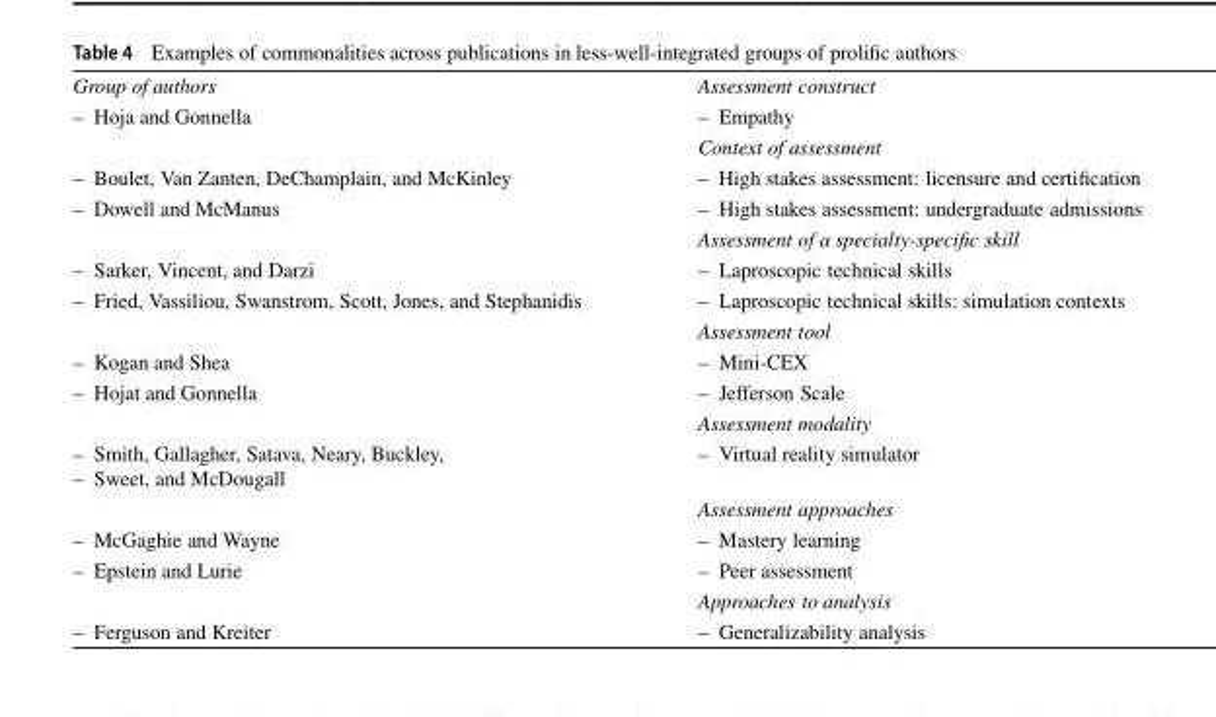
<table><tbody><tr><td>Group of authors</td><td>Assessment construct</td></tr><tr><td rowspan="2">– Hoja and Gonnella</td><td>– Empathy</td></tr><tr><td>Context of assessment</td></tr><tr><td>– Boulet, Van Zanten, DeChamplain, and McKinley</td><td>– High stakes assessment: licensure and certification</td></tr><tr><td rowspan="2">– Dowell and McManus</td><td>– High stakes assessment: undergraduate admissions</td></tr><tr><td>Assessment of a specialty-specific skill</td></tr><tr><td>– Sarker, Vincent, and Darzi</td><td>– Laproscopic technical skills</td></tr><tr><td rowspan="2">– Fried, Vassiliou, Swanstrom, Scott, Jones, and Stephanidis</td><td>– Laproscopic technical skills: simulation contexts</td></tr><tr><td>Assessment tool</td></tr><tr><td>– Kogan and Shea</td><td>– Mini-CEX</td></tr><tr><td rowspan="2">– Hojat and Gonnella</td><td>– Jefferson Scale</td></tr><tr><td>Assessment modality</td></tr><tr><td rowspan="2">– Smith, Gallagher, Satava, Neary, Buckley, – Sweet, and McDougall</td><td>– Virtual reality simulator</td></tr><tr><td>Assessment approaches</td></tr><tr><td>– McGaghie and Wayne</td><td>– Mastery learning</td></tr><tr><td rowspan="2">– Epstein and Lurie</td><td>– Peer assessment</td></tr><tr><td>Approaches to analysis</td></tr><tr><td>– Ferguson and Kreiter</td><td>– Generalizability analysis</td></tr></tbody></table>